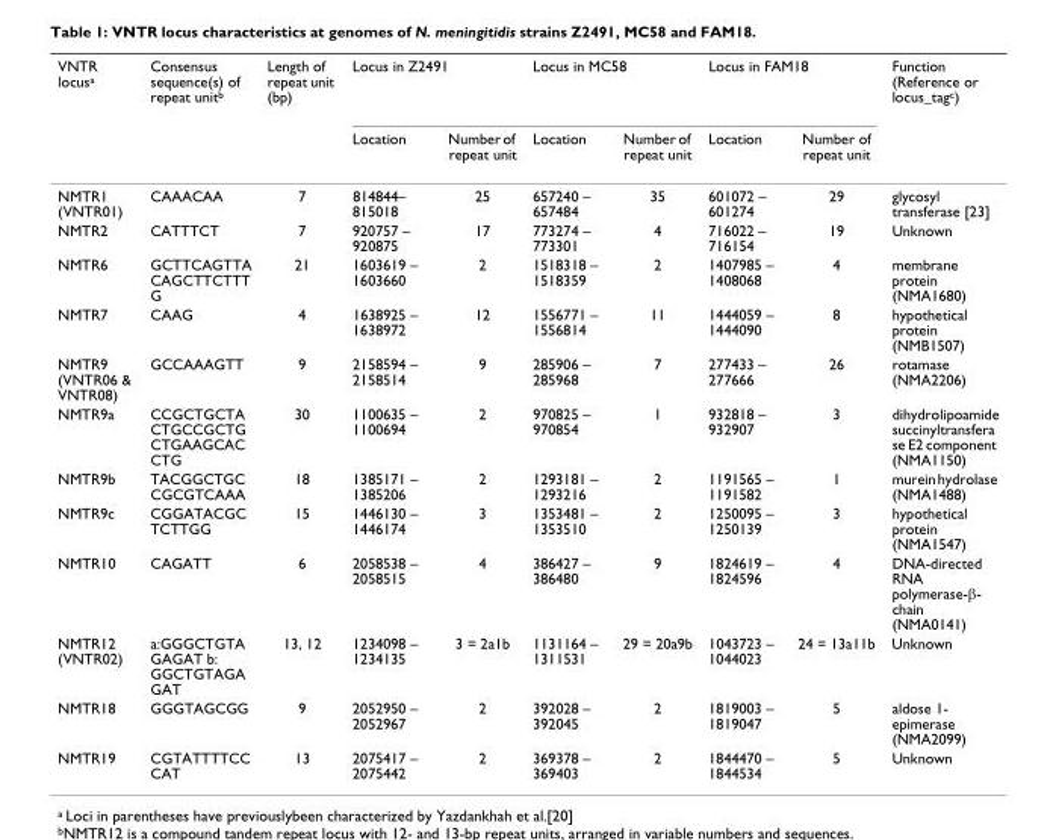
<table><thead><tr><td rowspan="2">VNTR locusa</td><td rowspan="2">Consensus sequence(s) of repeat unitb</td><td rowspan="2">Length of repeat unit (bp)</td><td colspan="2">Locus in Z2491</td><td colspan="2">Locus in MC58</td><td colspan="2">Locus in FAM18</td><td rowspan="2">Function (Reference or locus_tagc)</td></tr><tr><td>Location</td><td>Number of repeat unit</td><td>Location</td><td>Number of repeat unit</td><td>Location</td><td>Number of repeat unit</td></tr></thead><tbody><tr><td>NMTR1 (VNTR01)</td><td>CAAACAA</td><td>7</td><td>814844– 815018</td><td>25</td><td>657240 – 657484</td><td>35</td><td>601072 – 601274</td><td>29</td><td>glycosyl transferase [23]</td></tr><tr><td>NMTR2</td><td>CATTTCT</td><td>7</td><td>920757 – 920875</td><td>17</td><td>773274 – 773301</td><td>4</td><td>716022 – 716154</td><td>19</td><td>Unknown</td></tr><tr><td>NMTR6</td><td>GCTTCAGTTA CAGCTTCTTT G</td><td>21</td><td>1603619 – 1603660</td><td>2</td><td>1518318 – 1518359</td><td>2</td><td>1407985 – 1408068</td><td>4</td><td>membrane protein (NMA1680)</td></tr><tr><td>NMTR7</td><td>CAAG</td><td>4</td><td>1638925 – 1638972</td><td>12</td><td>1556771 – 1556814</td><td>11</td><td>1444059 – 1444090</td><td>8</td><td>hypothetical protein (NMB1507)</td></tr><tr><td>NMTR9 (VNTR06 &amp; VNTR08)</td><td>GCCAAAGTT</td><td>9</td><td>2158594 – 2158514</td><td>9</td><td>285906 – 285968</td><td>7</td><td>277433 – 277666</td><td>26</td><td>rotamase (NMA2206)</td></tr><tr><td>NMTR9a</td><td>CCGCTGCTA CTGCCGCTG CTGAAGCAC CTG</td><td>30</td><td>1100635 – 1100694</td><td>2</td><td>970825 – 970854</td><td>1</td><td>932818 – 932907</td><td>3</td><td>dihydrolipoamide succinyltransfera se E2 component (NMA1150)</td></tr><tr><td>NMTR9b</td><td>TACGGCTGC CGCGTCAAA</td><td>18</td><td>1385171 – 1385206</td><td>2</td><td>1293181 – 1293216</td><td>2</td><td>1191565 – 1191582</td><td>1</td><td>murein hydrolase (NMA1488)</td></tr><tr><td>NMTR9c</td><td>CGGATACGC TCTTGG</td><td>15</td><td>1446130 – 1446174</td><td>3</td><td>1353481 – 1353510</td><td>2</td><td>1250095 – 1250139</td><td>3</td><td>hypothetical protein (NMA1547)</td></tr><tr><td>NMTR10</td><td>CAGATT</td><td>6</td><td>2058538 – 2058515</td><td>4</td><td>386427 – 386480</td><td>9</td><td>1824619 – 1824596</td><td>4</td><td>DNA-directed RNA polymerase-β- chain (NMA0141)</td></tr><tr><td>NMTR12 (VNTR02)</td><td>a:GGGCTGTA GAGAT b: GGCTGTAGA GAT</td><td>13, 12</td><td>1234098 – 1234135</td><td>3 = 2a1b</td><td>1131164 – 1311531</td><td>29 = 20a9b</td><td>1043723 – 1044023</td><td>24 = 13a11b</td><td>Unknown</td></tr><tr><td>NMTR18</td><td>GGGTAGCGG</td><td>9</td><td>2052950 – 2052967</td><td>2</td><td>392028 – 392045</td><td>2</td><td>1819003 – 1819047</td><td>5</td><td>aldose 1- epimerase (NMA2099)</td></tr><tr><td>NMTR19</td><td>CGTATTTTCC CAT</td><td>13</td><td>2075417 – 2075442</td><td>2</td><td>369378 – 369403</td><td>2</td><td>1844470 – 1844534</td><td>5</td><td>Unknown</td></tr></tbody></table>